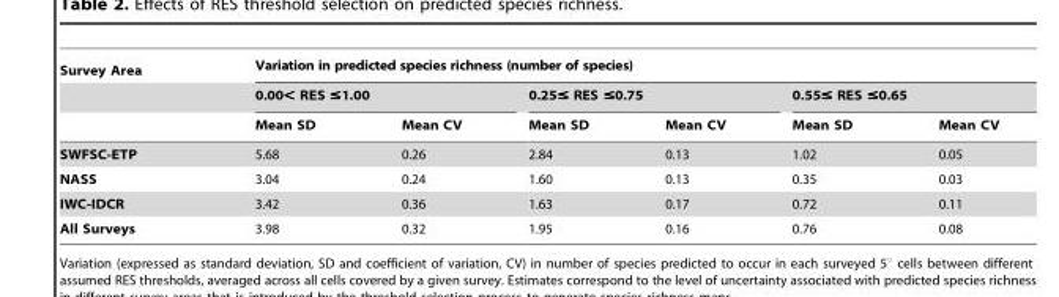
<table><thead><tr><td rowspan="3">Survey Area</td><td colspan="6">Variation in predicted species richness (number of species)</td></tr><tr><td colspan="2">0.00&lt; RES ≤1.00</td><td colspan="2">0.25≤ RES ≤0.75</td><td colspan="2">0.55≤ RES ≤0.65</td></tr><tr><td>Mean SD</td><td>Mean CV</td><td>Mean SD</td><td>Mean CV</td><td>Mean SD</td><td>Mean CV</td></tr></thead><tbody><tr><td>SWFSC-ETP</td><td>5.68</td><td>0.26</td><td>2.84</td><td>0.13</td><td>1.02</td><td>0.05</td></tr><tr><td>NASS</td><td>3.04</td><td>0.24</td><td>1.60</td><td>0.13</td><td>0.35</td><td>0.03</td></tr><tr><td>IWC-IDCR</td><td>3.42</td><td>0.36</td><td>1.63</td><td>0.17</td><td>0.72</td><td>0.11</td></tr><tr><td>All Surveys</td><td>3.98</td><td>0.32</td><td>1.95</td><td>0.16</td><td>0.76</td><td>0.08</td></tr></tbody></table>